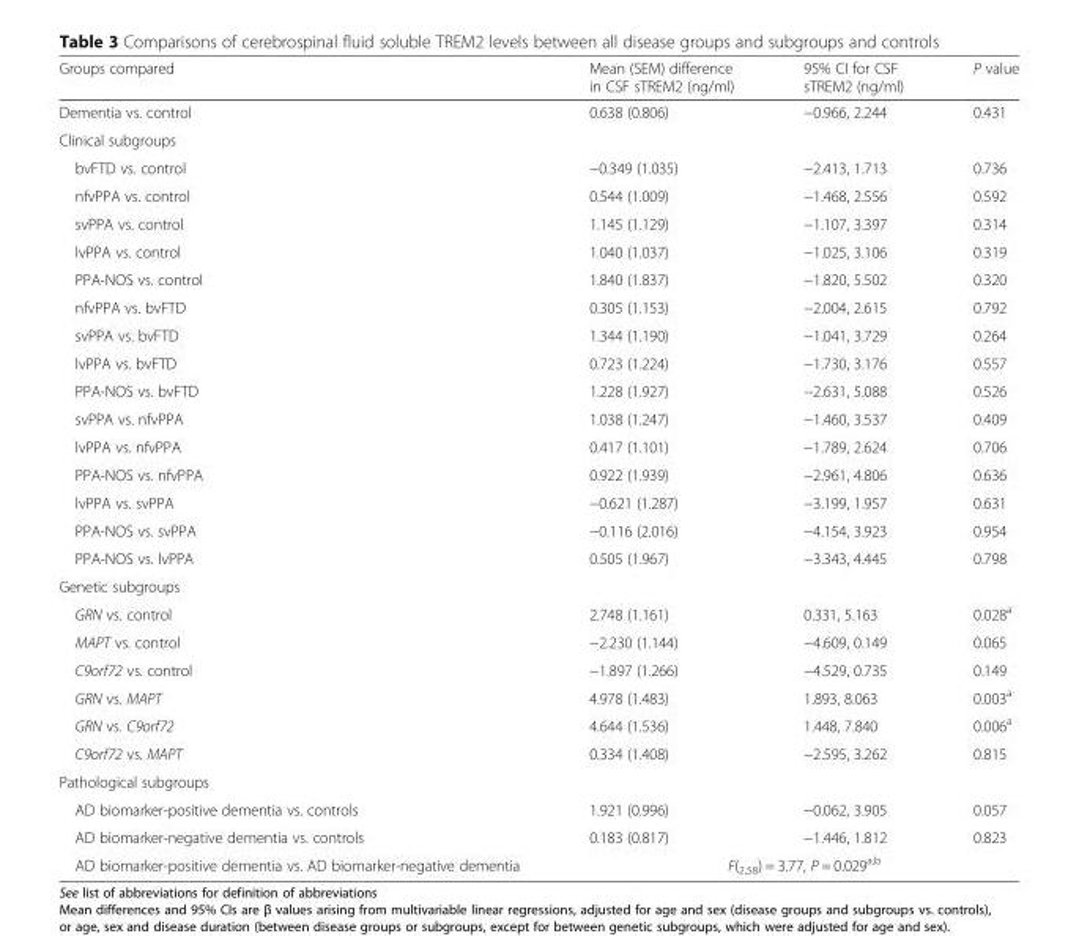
<table><thead><tr><td>Groups compared</td><td>Mean (SEM) difference in CSF sTREM2 (ng/ml)</td><td>95% CI for CSF sTREM2 (ng/ml)</td><td>P value</td></tr></thead><tbody><tr><td>Dementia vs. control</td><td>0.638 (0.806)</td><td>−0.966, 2.244</td><td>0.431</td></tr><tr><td colspan="4">Clinical subgroups</td></tr><tr><td>bvFTD vs. control</td><td>−0.349 (1.035)</td><td>−2.413, 1.713</td><td>0.736</td></tr><tr><td>nfvPPA vs. control</td><td>0.544 (1.009)</td><td>−1.468, 2.556</td><td>0.592</td></tr><tr><td>svPPA vs. control</td><td>1.145 (1.129)</td><td>−1.107, 3.397</td><td>0.314</td></tr><tr><td>lvPPA vs. control</td><td>1.040 (1.037)</td><td>−1.025, 3.106</td><td>0.319</td></tr><tr><td>PPA-NOS vs. control</td><td>1.840 (1.837)</td><td>−1.820, 5.502</td><td>0.320</td></tr><tr><td>nfvPPA vs. bvFTD</td><td>0.305 (1.153)</td><td>−2.004, 2.615</td><td>0.792</td></tr><tr><td>svPPA vs. bvFTD</td><td>1.344 (1.190)</td><td>−1.041, 3.729</td><td>0.264</td></tr><tr><td>lvPPA vs. bvFTD</td><td>0.723 (1.224)</td><td>−1.730, 3.176</td><td>0.557</td></tr><tr><td>PPA-NOS vs. bvFTD</td><td>1.228 (1.927)</td><td>−2.631, 5.088</td><td>0.526</td></tr><tr><td>svPPA vs. nfvPPA</td><td>1.038 (1.247)</td><td>−1.460, 3.537</td><td>0.409</td></tr><tr><td>lvPPA vs. nfvPPA</td><td>0.417 (1.101)</td><td>−1.789, 2.624</td><td>0.706</td></tr><tr><td>PPA-NOS vs. nfvPPA</td><td>0.922 (1.939)</td><td>−2.961, 4.806</td><td>0.636</td></tr><tr><td>lvPPA vs. svPPA</td><td>−0.621 (1.287)</td><td>−3.199, 1.957</td><td>0.631</td></tr><tr><td>PPA-NOS vs. svPPA</td><td>−0.116 (2.016)</td><td>−4.154, 3.923</td><td>0.954</td></tr><tr><td>PPA-NOS vs. lvPPA</td><td>0.505 (1.967)</td><td>−3.343, 4.445</td><td>0.798</td></tr><tr><td colspan="4">Genetic subgroups</td></tr><tr><td>GRN vs. control</td><td>2.748 (1.161)</td><td>0.331, 5.163</td><td>0.028<sup>a</sup></td></tr><tr><td>MAPT vs. control</td><td>−2.230 (1.144)</td><td>−4.609, 0.149</td><td>0.065</td></tr><tr><td>C9orf72 vs. control</td><td>−1.897 (1.266)</td><td>−4.529, 0.735</td><td>0.149</td></tr><tr><td>GRN vs. MAPT</td><td>4.978 (1.483)</td><td>1.893, 8.063</td><td>0.003<sup>a</sup></td></tr><tr><td>GRN vs. C9orf72</td><td>4.644 (1.536)</td><td>1.448, 7.840</td><td>0.006<sup>a</sup></td></tr><tr><td>C9orf72 vs. MAPT</td><td>0.334 (1.408)</td><td>−2.595, 3.262</td><td>0.815</td></tr><tr><td colspan="4">Pathological subgroups</td></tr><tr><td>AD biomarker-positive dementia vs. controls</td><td>1.921 (0.996)</td><td>−0.062, 3.905</td><td>0.057</td></tr><tr><td>AD biomarker-negative dementia vs. controls</td><td>0.183 (0.817)</td><td>−1.446, 1.812</td><td>0.823</td></tr><tr><td>AD biomarker-positive dementia vs. AD biomarker-negative dementia</td><td colspan="3">F(<sub>2,58</sub>) = 3.77, P = 0.029<sup>a,b</sup></td></tr></tbody></table>